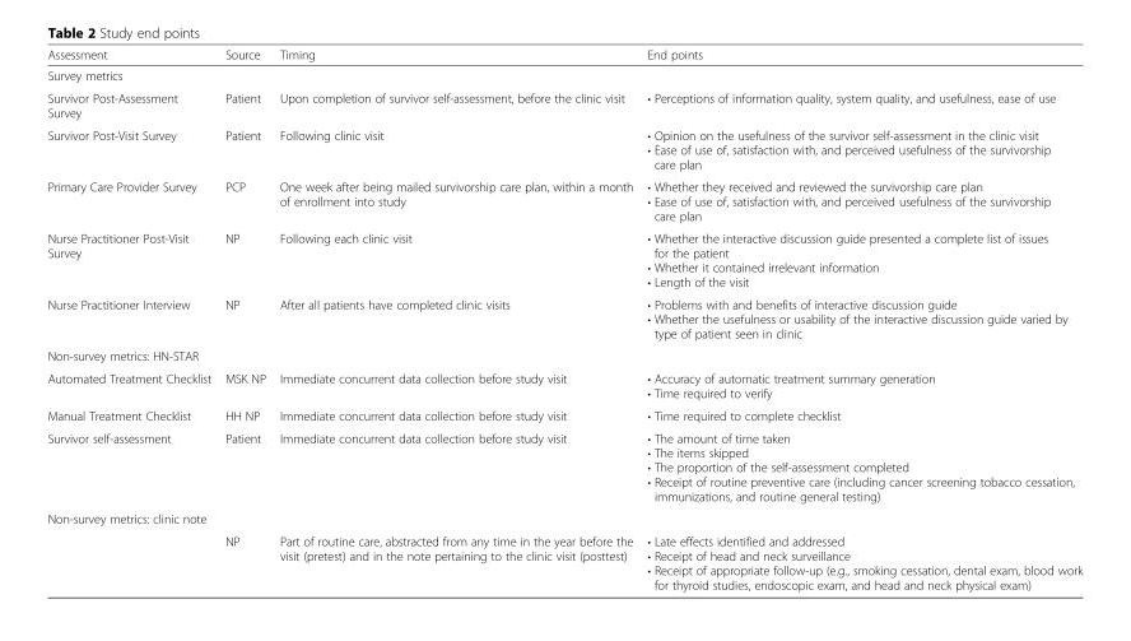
<table><thead><tr><td>Assessment</td><td>Source</td><td>Timing</td><td>End points</td></tr></thead><tbody><tr><td colspan="4">Survey metrics</td></tr><tr><td>Survivor Post-Assessment Survey</td><td>Patient</td><td>Upon completion of survivor self-assessment, before the clinic visit</td><td>• Perceptions of information quality, system quality, and usefulness, ease of use</td></tr><tr><td>Survivor Post-Visit Survey</td><td>Patient</td><td>Following clinic visit</td><td>• Opinion on the usefulness of the survivor self-assessment in the clinic visit • Ease of use of, satisfaction with, and perceived usefulness of the survivorship care plan</td></tr><tr><td>Primary Care Provider Survey</td><td>PCP</td><td>One week after being mailed survivorship care plan, within a month of enrollment into study</td><td>• Whether they received and reviewed the survivorship care plan • Ease of use of, satisfaction with, and perceived usefulness of the survivorship care plan</td></tr><tr><td>Nurse Practitioner Post-Visit Survey</td><td>NP</td><td>Following each clinic visit</td><td>• Whether the interactive discussion guide presented a complete list of issues for the patient • Whether it contained irrelevant information • Length of the visit</td></tr><tr><td>Nurse Practitioner Interview</td><td>NP</td><td>After all patients have completed clinic visits</td><td>• Problems with and benefits of interactive discussion guide • Whether the usefulness or usability of the interactive discussion guide varied by type of patient seen in clinic</td></tr><tr><td colspan="4">Non-survey metrics: HN-STAR</td></tr><tr><td>Automated Treatment Checklist</td><td>MSK NP</td><td>Immediate concurrent data collection before study visit</td><td>• Accuracy of automatic treatment summary generation • Time required to verify</td></tr><tr><td>Manual Treatment Checklist</td><td>HH NP</td><td>Immediate concurrent data collection before study visit</td><td>• Time required to complete checklist</td></tr><tr><td>Survivor self-assessment</td><td>Patient</td><td>Immediate concurrent data collection before study visit</td><td>• The amount of time taken • The items skipped • The proportion of the self-assessment completed • Receipt of routine preventive care (including cancer screening tobacco cessation, immunizations, and routine general testing)</td></tr><tr><td colspan="4">Non-survey metrics: clinic note</td></tr><tr><td></td><td>NP</td><td>Part of routine care, abstracted from any time in the year before the visit (pretest) and in the note pertaining to the clinic visit (posttest)</td><td>• Late effects identified and addressed • Receipt of head and neck surveillance • Receipt of appropriate follow-up (e.g., smoking cessation, dental exam, blood work for thyroid studies, endoscopic exam, and head and neck physical exam)</td></tr></tbody></table>